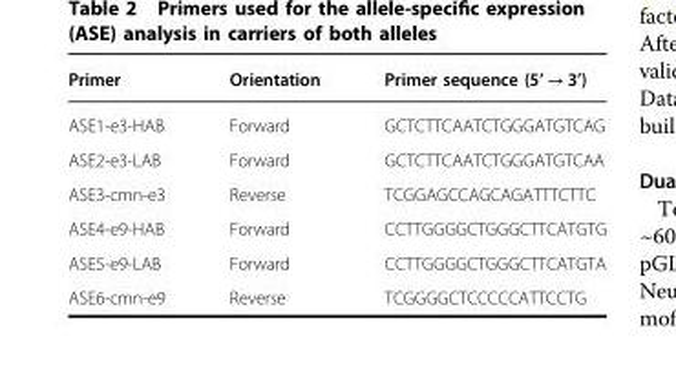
<table><thead><tr><td>Primer</td><td>Orientation</td><td>Primer sequence (5’ → 3’)</td></tr></thead><tbody><tr><td>ASE1-e3-HAB</td><td>Forward</td><td>GCTCTTCAATCTGGGATGTCAG</td></tr><tr><td>ASE2-e3-LAB</td><td>Forward</td><td>GCTCTTCAATCTGGGATGTCAA</td></tr><tr><td>ASE3-cmn-e3</td><td>Reverse</td><td>TCGGAGCCAGCAGATTTCTTC</td></tr><tr><td>ASE4-e9-HAB</td><td>Forward</td><td>CCTTGGGGCTGGGCTTCATGTG</td></tr><tr><td>ASE5-e9-LAB</td><td>Forward</td><td>CCTTGGGGCTGGGCTTCATGTA</td></tr><tr><td>ASE6-cmn-e9</td><td>Reverse</td><td>TCGGGGCTCCCCCATTCCTG</td></tr></tbody></table>